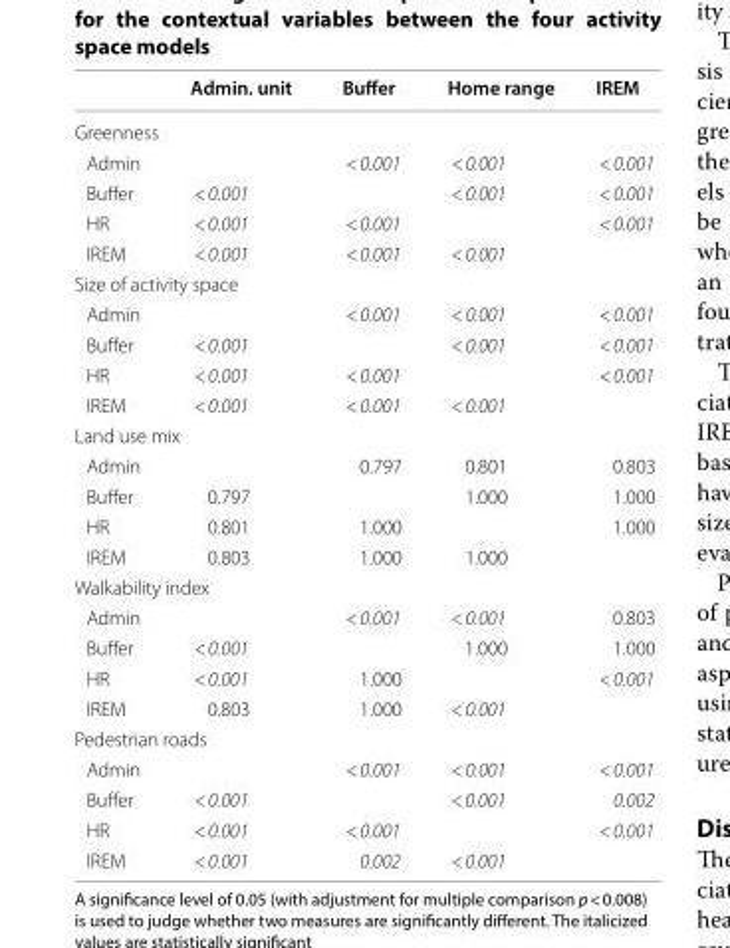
<table><thead><tr><td></td><td>Admin. unit</td><td>Buffer</td><td>Home range</td><td>IREM</td></tr></thead><tbody><tr><td colspan="5">Greenness</td></tr><tr><td>Admin</td><td></td><td>&lt; 0.001</td><td>&lt; 0.001</td><td>&lt; 0.001</td></tr><tr><td>Buffer</td><td>&lt; 0.001</td><td></td><td>&lt; 0.001</td><td>&lt; 0.001</td></tr><tr><td>HR</td><td>&lt; 0.001</td><td>&lt; 0.001</td><td></td><td>&lt; 0.001</td></tr><tr><td>IREM</td><td>&lt; 0.001</td><td>&lt; 0.001</td><td>&lt; 0.001</td><td></td></tr><tr><td colspan="5">Size of activity space</td></tr><tr><td>Admin</td><td></td><td>&lt; 0.001</td><td>&lt; 0.001</td><td>&lt; 0.001</td></tr><tr><td>Buffer</td><td>&lt; 0.001</td><td></td><td>&lt; 0.001</td><td>&lt; 0.001</td></tr><tr><td>HR</td><td>&lt; 0.001</td><td>&lt; 0.001</td><td></td><td>&lt; 0.001</td></tr><tr><td>IREM</td><td>&lt; 0.001</td><td>&lt; 0.001</td><td>&lt; 0.001</td><td></td></tr><tr><td colspan="5">Land use mix</td></tr><tr><td>Admin</td><td></td><td>0.797</td><td>0.801</td><td>0.803</td></tr><tr><td>Buffer</td><td>0.797</td><td></td><td>1.000</td><td>1.000</td></tr><tr><td>HR</td><td>0.801</td><td>1.000</td><td></td><td>1.000</td></tr><tr><td>IREM</td><td>0.803</td><td>1.000</td><td>1.000</td><td></td></tr><tr><td colspan="5">Walkability index</td></tr><tr><td>Admin</td><td></td><td>&lt; 0.001</td><td>&lt; 0.001</td><td>0.803</td></tr><tr><td>Buffer</td><td>&lt; 0.001</td><td></td><td>1.000</td><td>1.000</td></tr><tr><td>HR</td><td>&lt; 0.001</td><td>1.000</td><td></td><td>&lt; 0.001</td></tr><tr><td>IREM</td><td>0.803</td><td>1.000</td><td>&lt; 0.001</td><td></td></tr><tr><td colspan="5">Pedestrian roads</td></tr><tr><td>Admin</td><td></td><td>&lt; 0.001</td><td>&lt; 0.001</td><td>&lt; 0.001</td></tr><tr><td>Buffer</td><td>&lt; 0.001</td><td></td><td>&lt; 0.001</td><td>0.002</td></tr><tr><td>HR</td><td>&lt; 0.001</td><td>&lt; 0.001</td><td></td><td>&lt; 0.001</td></tr><tr><td>IREM</td><td>&lt; 0.001</td><td>0.002</td><td>&lt; 0.001</td><td></td></tr></tbody></table>